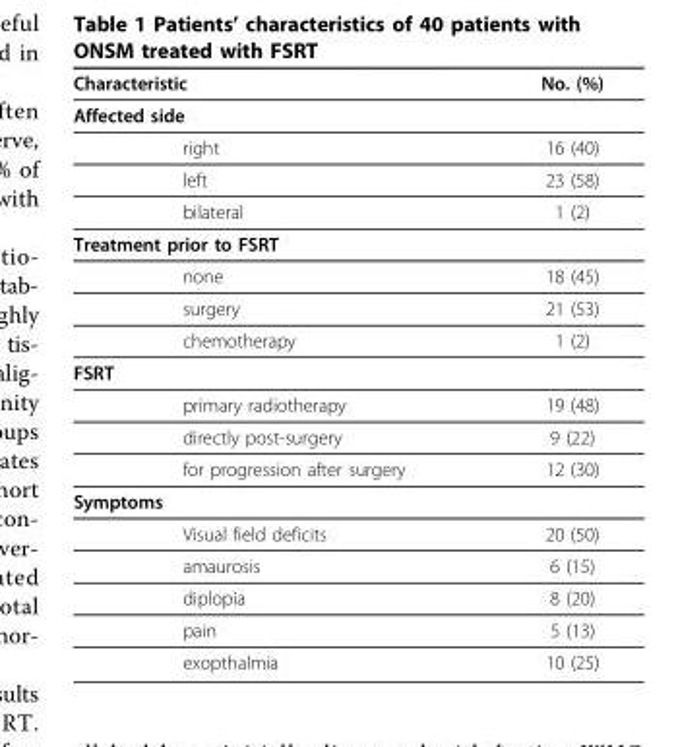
<table><thead><tr><td>Characteristic</td><td>No. (%)</td></tr></thead><tbody><tr><td colspan="2">Affected side</td></tr><tr><td>right</td><td>16 (40)</td></tr><tr><td>left</td><td>23 (58)</td></tr><tr><td>bilateral</td><td>1 (2)</td></tr><tr><td colspan="2">Treatment prior to FSRT</td></tr><tr><td>none</td><td>18 (45)</td></tr><tr><td>surgery</td><td>21 (53)</td></tr><tr><td>chemotherapy</td><td>1 (2)</td></tr><tr><td colspan="2">FSRT</td></tr><tr><td>primary radiotherapy</td><td>19 (48)</td></tr><tr><td>directly post-surgery</td><td>9 (22)</td></tr><tr><td>for progression after surgery</td><td>12 (30)</td></tr><tr><td colspan="2">Symptoms</td></tr><tr><td>Visual field deficits</td><td>20 (50)</td></tr><tr><td>amaurosis</td><td>6 (15)</td></tr><tr><td>diplopia</td><td>8 (20)</td></tr><tr><td>pain</td><td>5 (13)</td></tr><tr><td>exopthalmia</td><td>10 (25)</td></tr></tbody></table>